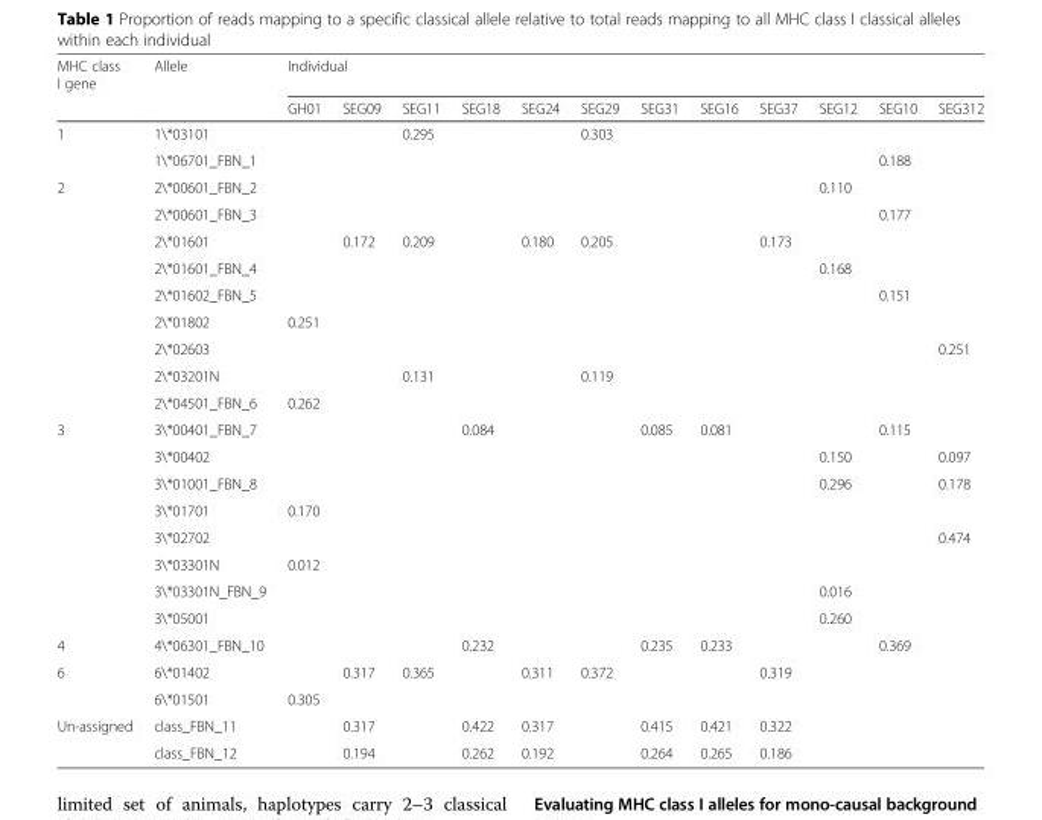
<table><thead><tr><td rowspan="2">MHC class I gene</td><td rowspan="2">Allele</td><td colspan="12">Individual</td></tr><tr><td>GH01</td><td>SEG09</td><td>SEG11</td><td>SEG18</td><td>SEG24</td><td>SEG29</td><td>SEG31</td><td>SEG16</td><td>SEG37</td><td>SEG12</td><td>SEG10</td><td>SEG312</td></tr></thead><tbody><tr><td rowspan="2">1</td><td>1\*03101</td><td></td><td></td><td>0.295</td><td></td><td></td><td>0.303</td><td></td><td></td><td></td><td></td><td></td><td></td></tr><tr><td>1\*06701_FBN_1</td><td></td><td></td><td></td><td></td><td></td><td></td><td></td><td></td><td></td><td></td><td>0.188</td><td></td></tr><tr><td rowspan="9">2</td><td>2\*00601_FBN_2</td><td></td><td></td><td></td><td></td><td></td><td></td><td></td><td></td><td></td><td>0.110</td><td></td><td></td></tr><tr><td>2\*00601_FBN_3</td><td></td><td></td><td></td><td></td><td></td><td></td><td></td><td></td><td></td><td></td><td>0.177</td><td></td></tr><tr><td>2\*01601</td><td></td><td>0.172</td><td>0.209</td><td></td><td>0.180</td><td>0.205</td><td></td><td></td><td>0.173</td><td></td><td></td><td></td></tr><tr><td>2\*01601_FBN_4</td><td></td><td></td><td></td><td></td><td></td><td></td><td></td><td></td><td></td><td>0.168</td><td></td><td></td></tr><tr><td>2\*01602_FBN_5</td><td></td><td></td><td></td><td></td><td></td><td></td><td></td><td></td><td></td><td></td><td>0.151</td><td></td></tr><tr><td>2\*01802</td><td>0.251</td><td></td><td></td><td></td><td></td><td></td><td></td><td></td><td></td><td></td><td></td><td></td></tr><tr><td>2\*02603</td><td></td><td></td><td></td><td></td><td></td><td></td><td></td><td></td><td></td><td></td><td></td><td>0.251</td></tr><tr><td>2\*03201N</td><td></td><td></td><td>0.131</td><td></td><td></td><td>0.119</td><td></td><td></td><td></td><td></td><td></td><td></td></tr><tr><td>2\*04501_FBN_6</td><td>0.262</td><td></td><td></td><td></td><td></td><td></td><td></td><td></td><td></td><td></td><td></td><td></td></tr><tr><td rowspan="8">3</td><td>3\*00401_FBN_7</td><td></td><td></td><td></td><td>0.084</td><td></td><td></td><td>0.085</td><td>0.081</td><td></td><td></td><td>0.115</td><td></td></tr><tr><td>3\*00402</td><td></td><td></td><td></td><td></td><td></td><td></td><td></td><td></td><td></td><td>0.150</td><td></td><td>0.097</td></tr><tr><td>3\*01001_FBN_8</td><td></td><td></td><td></td><td></td><td></td><td></td><td></td><td></td><td></td><td>0.296</td><td></td><td>0.178</td></tr><tr><td>3\*01701</td><td>0.170</td><td></td><td></td><td></td><td></td><td></td><td></td><td></td><td></td><td></td><td></td><td></td></tr><tr><td>3\*02702</td><td></td><td></td><td></td><td></td><td></td><td></td><td></td><td></td><td></td><td></td><td></td><td>0.474</td></tr><tr><td>3\*03301N</td><td>0.012</td><td></td><td></td><td></td><td></td><td></td><td></td><td></td><td></td><td></td><td></td><td></td></tr><tr><td>3\*03301N_FBN_9</td><td></td><td></td><td></td><td></td><td></td><td></td><td></td><td></td><td></td><td>0.016</td><td></td><td></td></tr><tr><td>3\*05001</td><td></td><td></td><td></td><td></td><td></td><td></td><td></td><td></td><td></td><td>0.260</td><td></td><td></td></tr><tr><td>4</td><td>4\*06301_FBN_10</td><td></td><td></td><td></td><td>0.232</td><td></td><td></td><td>0.235</td><td>0.233</td><td></td><td></td><td>0.369</td><td></td></tr><tr><td rowspan="2">6</td><td>6\*01402</td><td></td><td>0.317</td><td>0.365</td><td></td><td>0.311</td><td>0.372</td><td></td><td></td><td>0.319</td><td></td><td></td><td></td></tr><tr><td>6\*01501</td><td>0.305</td><td></td><td></td><td></td><td></td><td></td><td></td><td></td><td></td><td></td><td></td><td></td></tr><tr><td rowspan="2">Un-assigned</td><td>class_FBN_11</td><td></td><td>0.317</td><td></td><td>0.422</td><td>0.317</td><td></td><td>0.415</td><td>0.421</td><td>0.322</td><td></td><td></td><td></td></tr><tr><td>class_FBN_12</td><td></td><td>0.194</td><td></td><td>0.262</td><td>0.192</td><td></td><td>0.264</td><td>0.265</td><td>0.186</td><td></td><td></td><td></td></tr></tbody></table>